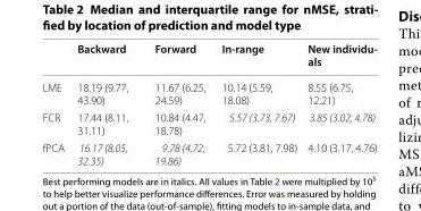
<table><thead><tr><td></td><td>Backward</td><td>Forward</td><td>In‑range</td><td>New individu‑ als</td></tr></thead><tbody><tr><td>LME</td><td>18.19 (9.77, 43.90)</td><td>11.67 (6.25, 24.59)</td><td>10.14 (5.59, 18.08)</td><td>8.55 (6.75, 12.21)</td></tr><tr><td>FCR</td><td>17.44 (8.11, 31.11)</td><td>10.84 (4.47, 18.78)</td><td>5.57 (3.73, 7.67)</td><td>3.85 (3.02, 4.78)</td></tr><tr><td>fPCA</td><td>16.17 (8.05, 32.35)</td><td>9.78 (4.72, 19.86)</td><td>5.72 (3.81, 7.98)</td><td>4.10 (3.17, 4.76)</td></tr></tbody></table>